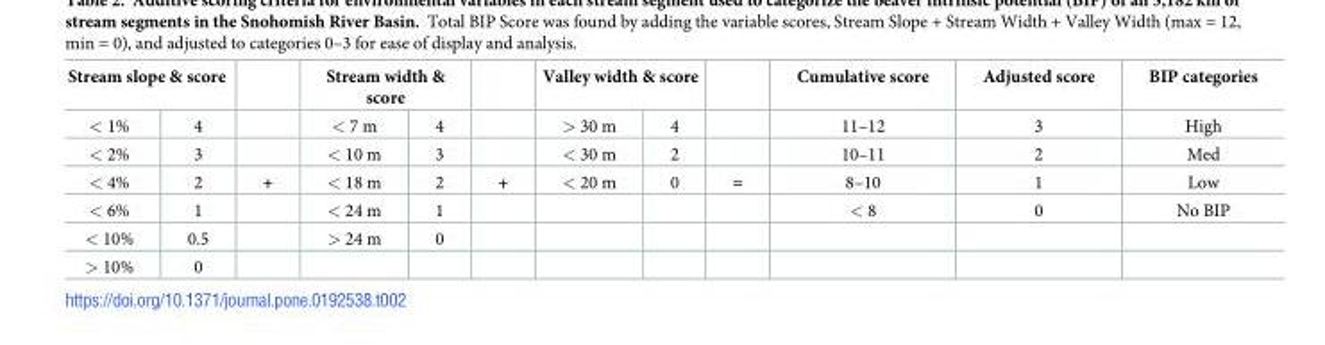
<table><thead><tr><td colspan="2">Stream slope &amp; score</td><td rowspan="2"></td><td colspan="2">Stream width &amp; score</td><td rowspan="2"></td><td colspan="2">Valley width &amp; score</td><td rowspan="2"></td><td rowspan="2">Cumulative score 11–12</td><td rowspan="2">Adjusted score 3</td><td rowspan="2">BIP categories High</td></tr><tr><td>&lt; 1%</td><td>4</td><td>&lt; 7 m</td><td>4</td><td>&gt; 30 m</td><td>4</td></tr></thead><tbody><tr><td>&lt; 2%</td><td>3</td><td></td><td>&lt; 10 m</td><td>3</td><td></td><td>&lt; 30 m</td><td>2</td><td></td><td>10–11</td><td>2</td><td>Med</td></tr><tr><td>&lt; 4%</td><td>2</td><td>+</td><td>&lt; 18 m</td><td>2</td><td>+</td><td>&lt; 20 m</td><td>0</td><td>=</td><td>8–10</td><td>1</td><td>Low</td></tr><tr><td>&lt; 6%</td><td>1</td><td></td><td>&lt; 24 m</td><td>1</td><td></td><td></td><td></td><td></td><td>&lt; 8</td><td>0</td><td>No BIP</td></tr><tr><td>&lt; 10%</td><td>0.5</td><td></td><td>&gt; 24 m</td><td>0</td><td></td><td></td><td></td><td></td><td></td><td></td><td></td></tr><tr><td>&gt; 10%</td><td>0</td><td></td><td></td><td></td><td></td><td></td><td></td><td></td><td></td><td></td><td></td></tr></tbody></table>